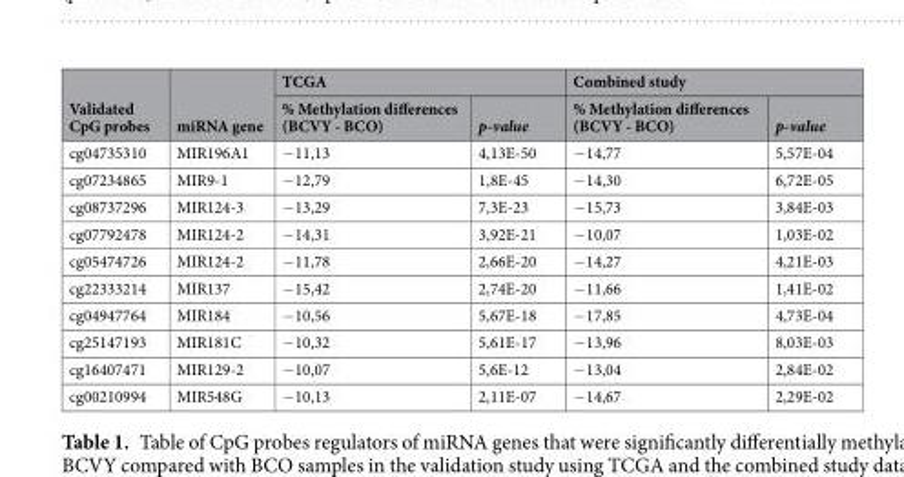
<table><thead><tr><td rowspan="2">Validated CpG probes</td><td rowspan="2">miRNA gene</td><td colspan="2">TCGA</td><td colspan="2">Combined study</td></tr><tr><td>% Methylation differences (BCVY - BCO)</td><td>p-value</td><td>% Methylation differences (BCVY - BCO)</td><td>p-value</td></tr></thead><tbody><tr><td>cg04735310</td><td>MIR196A1</td><td>−11,13</td><td>4,13E-50</td><td>−14,77</td><td>5,57E-04</td></tr><tr><td>cg07234865</td><td>MIR9-1</td><td>−12,79</td><td>1,8E-45</td><td>−14,30</td><td>6,72E-05</td></tr><tr><td>cg08737296</td><td>MIR124-3</td><td>−13,29</td><td>7,3E-23</td><td>−15,73</td><td>3,84E-03</td></tr><tr><td>cg07792478</td><td>MIR124-2</td><td>−14,31</td><td>3,92E-21</td><td>−10,07</td><td>1,03E-02</td></tr><tr><td>cg05474726</td><td>MIR124-2</td><td>−11,78</td><td>2,66E-20</td><td>−14,27</td><td>4,21E-03</td></tr><tr><td>cg22333214</td><td>MIR137</td><td>−15,42</td><td>2,74E-20</td><td>−11,66</td><td>1,41E-02</td></tr><tr><td>cg04947764</td><td>MIR184</td><td>−10,56</td><td>5,67E-18</td><td>−17,85</td><td>4,73E-04</td></tr><tr><td>cg25147193</td><td>MIR181C</td><td>−10,32</td><td>5,61E-17</td><td>−13,96</td><td>8,03E-03</td></tr><tr><td>cg16407471</td><td>MIR129-2</td><td>−10,07</td><td>5,6E-12</td><td>−13,04</td><td>2,84E-02</td></tr><tr><td>cg00210994</td><td>MIR548G</td><td>−10,13</td><td>2,11E-07</td><td>−14,67</td><td>2,29E-02</td></tr></tbody></table>